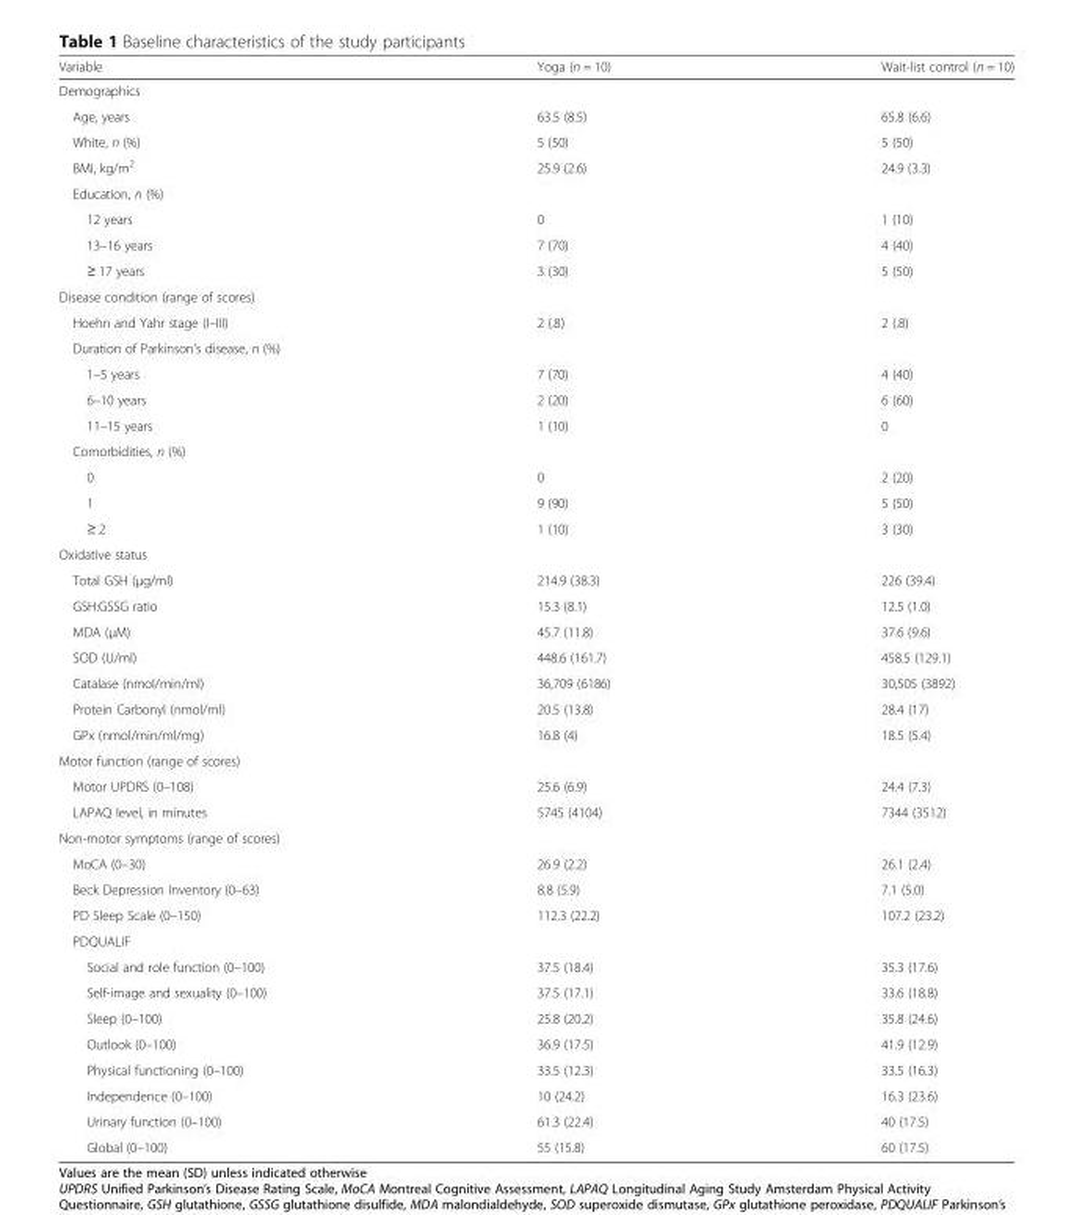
<table><thead><tr><td>Variable</td><td>Yoga (n = 10)</td><td>Wait-list control (n = 10)</td></tr></thead><tbody><tr><td colspan="3">Demographics</td></tr><tr><td>Age, years</td><td>63.5 (8.5)</td><td>65.8 (6.6)</td></tr><tr><td>White, n (%)</td><td>5 (50)</td><td>5 (50)</td></tr><tr><td>BMI, kg/m<sup>2</sup></td><td>25.9 (2.6)</td><td>24.9 (3.3)</td></tr><tr><td colspan="3">Education, n (%)</td></tr><tr><td>12 years</td><td>0</td><td>1 (10)</td></tr><tr><td>13–16 years</td><td>7 (70)</td><td>4 (40)</td></tr><tr><td>≥ 17 years</td><td>3 (30)</td><td>5 (50)</td></tr><tr><td colspan="3">Disease condition (range of scores)</td></tr><tr><td>Hoehn and Yahr stage (I–III)</td><td>2 (.8)</td><td>2 (.8)</td></tr><tr><td colspan="3">Duration of Parkinson’s disease, n (%)</td></tr><tr><td>1–5 years</td><td>7 (70)</td><td>4 (40)</td></tr><tr><td>6–10 years</td><td>2 (20)</td><td>6 (60)</td></tr><tr><td>11–15 years</td><td>1 (10)</td><td>0</td></tr><tr><td colspan="3">Comorbidities, n (%)</td></tr><tr><td>0</td><td>0</td><td>2 (20)</td></tr><tr><td>1</td><td>9 (90)</td><td>5 (50)</td></tr><tr><td>≥ 2</td><td>1 (10)</td><td>3 (30)</td></tr><tr><td colspan="3">Oxidative status</td></tr><tr><td>Total GSH (μg/ml)</td><td>214.9 (38.3)</td><td>226 (39.4)</td></tr><tr><td>GSH:GSSG ratio</td><td>15.3 (8.1)</td><td>12.5 (1.0)</td></tr><tr><td>MDA (μM)</td><td>45.7 (11.8)</td><td>37.6 (9.6)</td></tr><tr><td>SOD (U/ml)</td><td>448.6 (161.7)</td><td>458.5 (129.1)</td></tr><tr><td>Catalase (nmol/min/ml)</td><td>36,709 (6186)</td><td>30,505 (3892)</td></tr><tr><td>Protein Carbonyl (nmol/ml)</td><td>20.5 (13.8)</td><td>28.4 (17)</td></tr><tr><td>GPx (nmol/min/ml/mg)</td><td>16.8 (4)</td><td>18.5 (5.4)</td></tr><tr><td colspan="3">Motor function (range of scores)</td></tr><tr><td>Motor UPDRS (0–108)</td><td>25.6 (6.9)</td><td>24.4 (7.3)</td></tr><tr><td>LAPAQ level, in minutes</td><td>5745 (4104)</td><td>7344 (3512)</td></tr><tr><td colspan="3">Non-motor symptoms (range of scores)</td></tr><tr><td>MoCA (0–30)</td><td>26.9 (2.2)</td><td>26.1 (2.4)</td></tr><tr><td>Beck Depression Inventory (0–63)</td><td>8.8 (5.9)</td><td>7.1 (5.0)</td></tr><tr><td>PD Sleep Scale (0–150)</td><td>112.3 (22.2)</td><td>107.2 (23.2)</td></tr><tr><td colspan="3">PDQUALIF</td></tr><tr><td>Social and role function (0–100)</td><td>37.5 (18.4)</td><td>35.3 (17.6)</td></tr><tr><td>Self-image and sexuality (0–100)</td><td>37.5 (17.1)</td><td>33.6 (18.8)</td></tr><tr><td>Sleep (0–100)</td><td>25.8 (20.2)</td><td>35.8 (24.6)</td></tr><tr><td>Outlook (0–100)</td><td>36.9 (17.5)</td><td>41.9 (12.9)</td></tr><tr><td>Physical functioning (0–100)</td><td>33.5 (12.3)</td><td>33.5 (16.3)</td></tr><tr><td>Independence (0–100)</td><td>10 (24.2)</td><td>16.3 (23.6)</td></tr><tr><td>Urinary function (0–100)</td><td>61.3 (22.4)</td><td>40 (17.5)</td></tr><tr><td>Global (0–100)</td><td>55 (15.8)</td><td>60 (17.5)</td></tr></tbody></table>